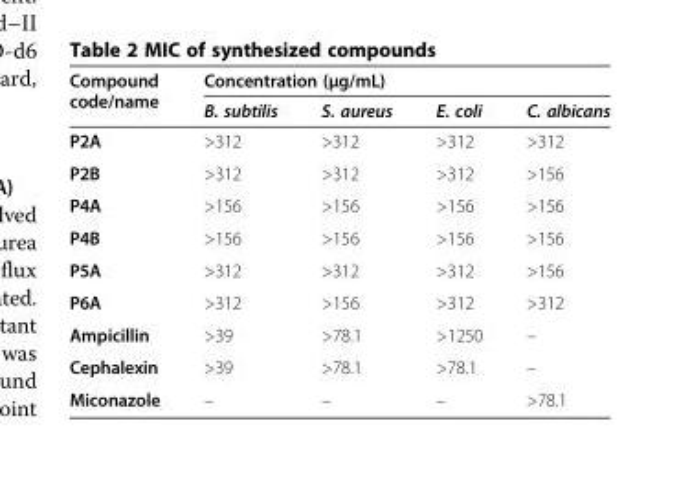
<table><thead><tr><td rowspan="2">Compound code/name</td><td colspan="4">Concentration (μg/mL)</td></tr><tr><td>B. subtilis</td><td>S. aureus</td><td>E. coli</td><td>C. albicans</td></tr></thead><tbody><tr><td>P2A</td><td>&gt;312</td><td>&gt;312</td><td>&gt;312</td><td>&gt;312</td></tr><tr><td>P2B</td><td>&gt;312</td><td>&gt;312</td><td>&gt;312</td><td>&gt;156</td></tr><tr><td>P4A</td><td>&gt;156</td><td>&gt;156</td><td>&gt;156</td><td>&gt;156</td></tr><tr><td>P4B</td><td>&gt;156</td><td>&gt;156</td><td>&gt;156</td><td>&gt;156</td></tr><tr><td>P5A</td><td>&gt;312</td><td>&gt;312</td><td>&gt;312</td><td>&gt;156</td></tr><tr><td>P6A</td><td>&gt;312</td><td>&gt;156</td><td>&gt;312</td><td>&gt;312</td></tr><tr><td>Ampicillin</td><td>&gt;39</td><td>&gt;78.1</td><td>&gt;1250</td><td>–</td></tr><tr><td>Cephalexin</td><td>&gt;39</td><td>&gt;78.1</td><td>&gt;78.1</td><td>–</td></tr><tr><td>Miconazole</td><td>–</td><td>–</td><td>–</td><td>&gt;78.1</td></tr></tbody></table>